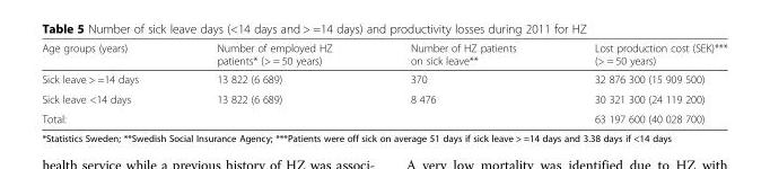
<table><thead><tr><td>Age groups (years)</td><td>Number of employed HZ patients* (&gt; = 50 years)</td><td>Number of HZ patients on sick leave**</td><td>Lost production cost (SEK)*** (&gt; = 50 years)</td></tr></thead><tbody><tr><td>Sick leave &gt; =14 days</td><td>13 822 (6 689)</td><td>370</td><td>32 876 300 (15 909 500)</td></tr><tr><td>Sick leave &lt;14 days</td><td>13 822 (6 689)</td><td>8 476</td><td>30 321 300 (24 119 200)</td></tr><tr><td>Total:</td><td></td><td></td><td>63 197 600 (40 028 700)</td></tr></tbody></table>